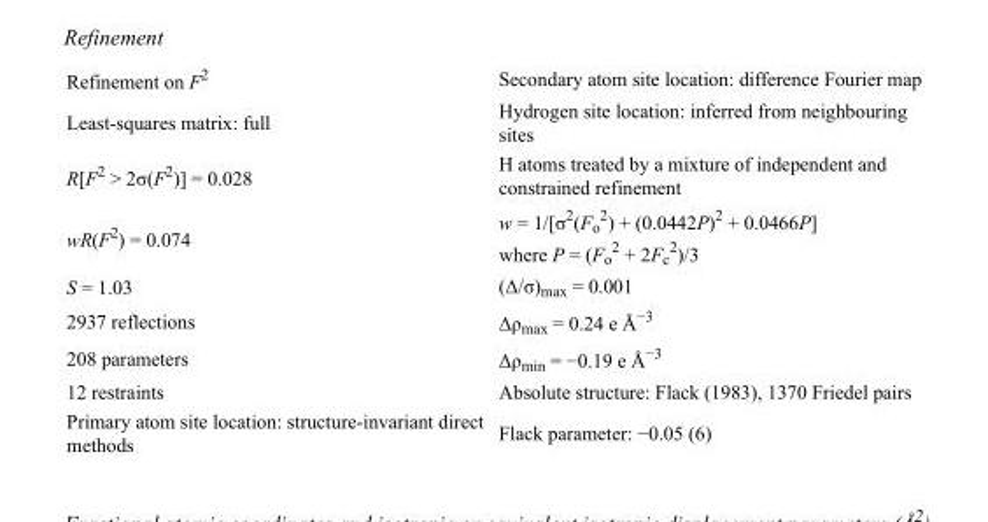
<table><tbody><tr><td>Refinement on F<sup>2</sup></td><td>Secondary atom site location: difference Fourier map</td></tr><tr><td>Least-squares matrix: full</td><td>Hydrogen site location: inferred from neighbouring sites</td></tr><tr><td>R[F<sup>2</sup> &gt; 2σ(F<sup>2</sup>)] = 0.028</td><td>H atoms treated by a mixture of independent and constrained refinement</td></tr><tr><td>wR(F<sup>2</sup>) = 0.074</td><td>w = 1/[σ<sup>2</sup>(F<sub>o</sub> <sup>2</sup>) + (0.0442P)<sup>2</sup> + 0.0466P] where P = (F<sub>o</sub> <sup>2</sup> + 2F<sub>c</sub> <sup>2</sup>)/3</td></tr><tr><td>S = 1.03</td><td>(Δ/σ)<sub>max</sub> = 0.001</td></tr><tr><td>2937 reflections</td><td>Δρ<sub>max</sub> = 0.24 e Å<sup>−3</sup></td></tr><tr><td>208 parameters</td><td>Δρ<sub>min</sub> = −0.19 e Å<sup>−3</sup></td></tr><tr><td>12 restraints</td><td>Absolute structure: Flack (1983), 1370 Friedel pairs</td></tr><tr><td>Primary atom site location: structure-invariant direct methods</td><td>Flack parameter: −0.05 (6)</td></tr></tbody></table>